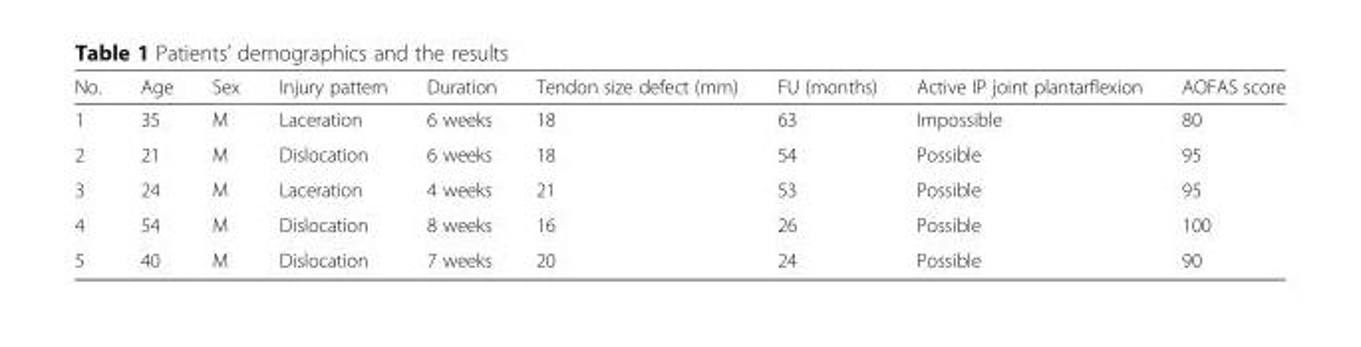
<table><thead><tr><td>No.</td><td>Age</td><td>Sex</td><td>Injury pattern</td><td>Duration</td><td>Tendon size defect (mm)</td><td>FU (months)</td><td>Active IP joint plantarflexion</td><td>AOFAS score</td></tr></thead><tbody><tr><td>1</td><td>35</td><td>M</td><td>Laceration</td><td>6 weeks</td><td>18</td><td>63</td><td>Impossible</td><td>80</td></tr><tr><td>2</td><td>21</td><td>M</td><td>Dislocation</td><td>6 weeks</td><td>18</td><td>54</td><td>Possible</td><td>95</td></tr><tr><td>3</td><td>24</td><td>M</td><td>Laceration</td><td>4 weeks</td><td>21</td><td>53</td><td>Possible</td><td>95</td></tr><tr><td>4</td><td>54</td><td>M</td><td>Dislocation</td><td>8 weeks</td><td>16</td><td>26</td><td>Possible</td><td>100</td></tr><tr><td>5</td><td>40</td><td>M</td><td>Dislocation</td><td>7 weeks</td><td>20</td><td>24</td><td>Possible</td><td>90</td></tr></tbody></table>